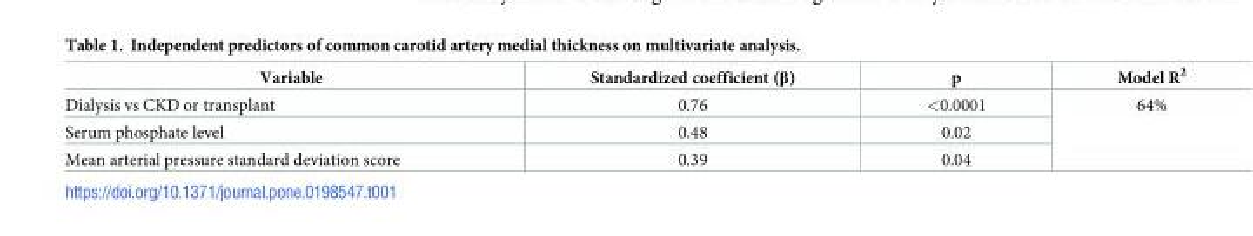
<table><thead><tr><td>Variable</td><td>Standardized coefficient (β)</td><td>p</td><td>Model R<sup>2</sup></td></tr></thead><tbody><tr><td>Dialysis vs CKD or transplant</td><td>0.76</td><td>&lt;0.0001</td><td rowspan="3">64%</td></tr><tr><td>Serum phosphate level</td><td>0.48</td><td>0.02</td></tr><tr><td>Mean arterial pressure standard deviation score</td><td>0.39</td><td>0.04</td></tr></tbody></table>